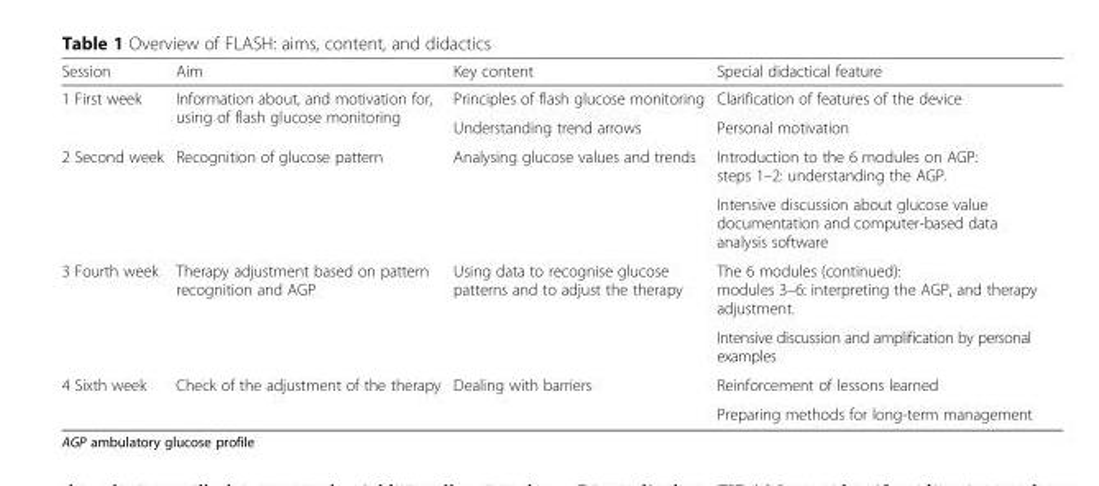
<table><thead><tr><td>Session</td><td>Aim</td><td>Key content</td><td>Special didactical feature</td></tr></thead><tbody><tr><td rowspan="2">1 First week</td><td rowspan="2">Information about, and motivation for, using of flash glucose monitoring</td><td>Principles of flash glucose monitoring</td><td>Clarification of features of the device</td></tr><tr><td>Understanding trend arrows</td><td>Personal motivation</td></tr><tr><td rowspan="2">2 Second week</td><td rowspan="2">Recognition of glucose pattern</td><td rowspan="2">Analysing glucose values and trends</td><td>Introduction to the 6 modules on AGP: steps 1–2: understanding the AGP.</td></tr><tr><td>Intensive discussion about glucose value documentation and computer-based data analysis software</td></tr><tr><td rowspan="2">3 Fourth week</td><td rowspan="2">Therapy adjustment based on pattern recognition and AGP</td><td rowspan="2">Using data to recognise glucose patterns and to adjust the therapy</td><td>The 6 modules (continued): modules 3–6: interpreting the AGP, and therapy adjustment.</td></tr><tr><td>Intensive discussion and amplification by personal examples</td></tr><tr><td rowspan="2">4 Sixth week</td><td rowspan="2">Check of the adjustment of the therapy</td><td rowspan="2">Dealing with barriers</td><td>Reinforcement of lessons learned</td></tr><tr><td>Preparing methods for long-term management</td></tr></tbody></table>